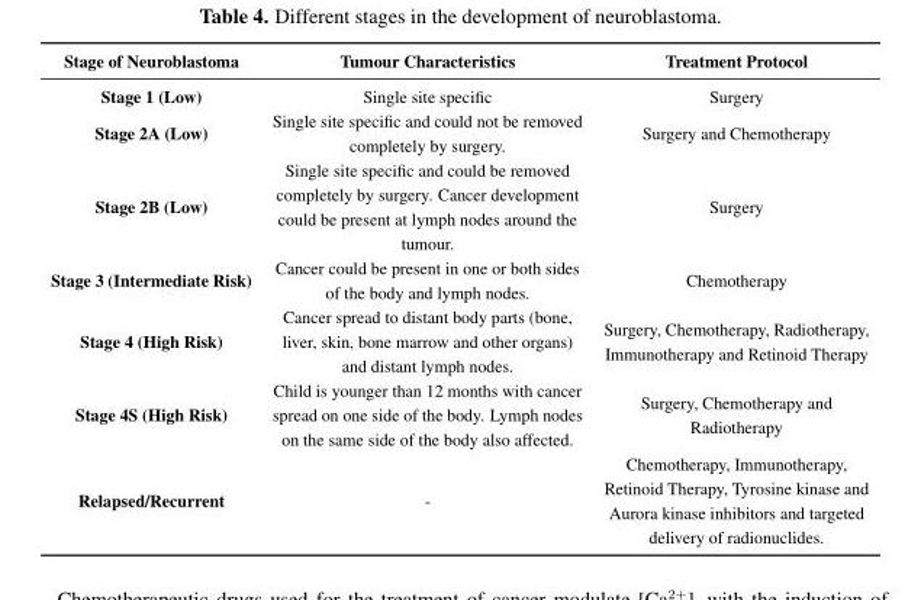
<table><thead><tr><td>Stage of Neuroblastoma</td><td>Tumour Characteristics</td><td>Treatment Protocol</td></tr></thead><tbody><tr><td>Stage 1 (Low)</td><td>Single site specific</td><td>Surgery</td></tr><tr><td>Stage 2A (Low)</td><td>Single site specific and could not be removed completely by surgery.</td><td>Surgery and Chemotherapy</td></tr><tr><td>Stage 2B (Low)</td><td>Single site specific and could be removed completely by surgery. Cancer development could be present at lymph nodes around the tumour.</td><td>Surgery</td></tr><tr><td>Stage 3 (Intermediate Risk)</td><td>Cancer could be present in one or both sides of the body and lymph nodes.</td><td>Chemotherapy</td></tr><tr><td>Stage 4 (High Risk)</td><td>Cancer spread to distant body parts (bone, liver, skin, bone marrow and other organs) and distant lymph nodes.</td><td>Surgery, Chemotherapy, Radiotherapy, Immunotherapy and Retinoid Therapy</td></tr><tr><td>Stage 4S (High Risk)</td><td>Child is younger than 12 months with cancer spread on one side of the body. Lymph nodes on the same side of the body also affected.</td><td>Surgery, Chemotherapy and Radiotherapy</td></tr><tr><td>Relapsed/Recurrent</td><td>-</td><td>Chemotherapy, Immunotherapy, Retinoid Therapy, Tyrosine kinase and Aurora kinase inhibitors and targeted delivery of radionuclides.</td></tr></tbody></table>